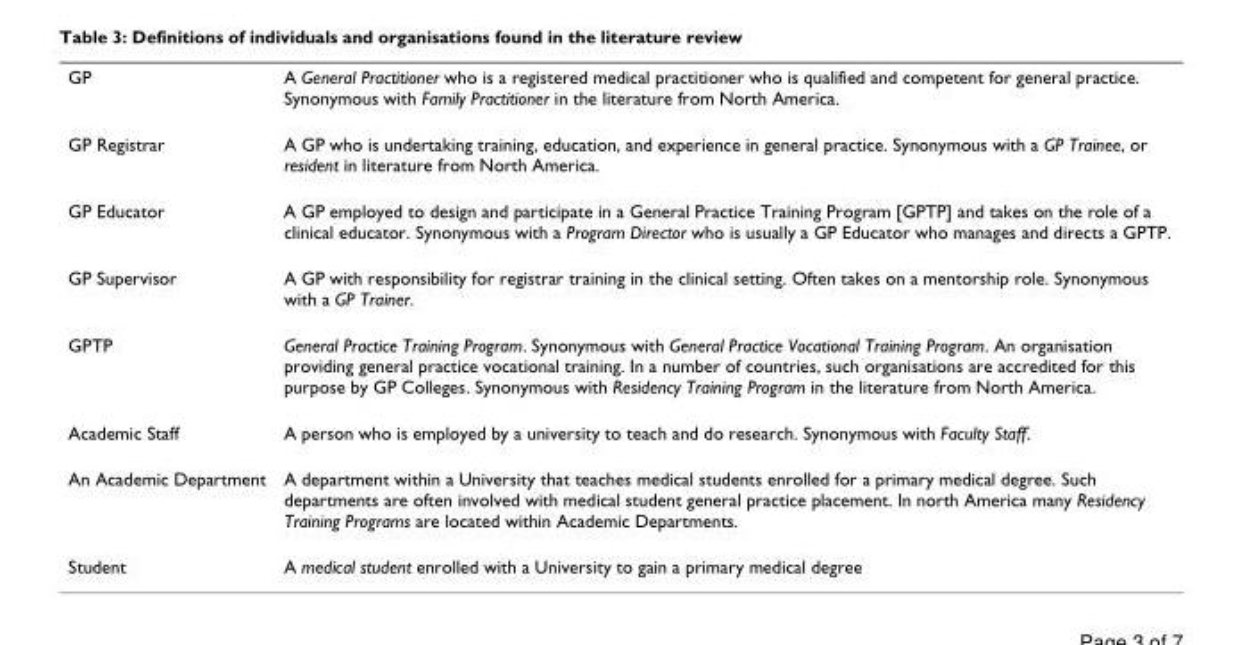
<table><tbody><tr><td>GP</td><td>A General Practitioner who is a registered medical practitioner who is qualified and competent for general practice. Synonymous with Family Practitioner in the literature from North America.</td></tr><tr><td>GP Registrar</td><td>A GP who is undertaking training, education, and experience in general practice. Synonymous with a GP Trainee, or resident in literature from North America.</td></tr><tr><td>GP Educator</td><td>A GP employed to design and participate in a General Practice Training Program [GPTP] and takes on the role of a clinical educator. Synonymous with a Program Director who is usually a GP Educator who manages and directs a GPTP.</td></tr><tr><td>GP Supervisor</td><td>A GP with responsibility for registrar training in the clinical setting. Often takes on a mentorship role. Synonymous with a GP Trainer.</td></tr><tr><td>GPTP</td><td>General Practice Training Program. Synonymous with General Practice Vocational Training Program. An organisation providing general practice vocational training. In a number of countries, such organisations are accredited for this purpose by GP Colleges. Synonymous with Residency Training Program in the literature from North America.</td></tr><tr><td>Academic Staff</td><td>A person who is employed by a university to teach and do research. Synonymous with Faculty Staff.</td></tr><tr><td>An Academic Department</td><td>A department within a University that teaches medical students enrolled for a primary medical degree. Such departments are often involved with medical student general practice placement. In north America many Residency Training Programs are located within Academic Departments.</td></tr><tr><td>Student</td><td>A medical student enrolled with a University to gain a primary medical degree</td></tr></tbody></table>